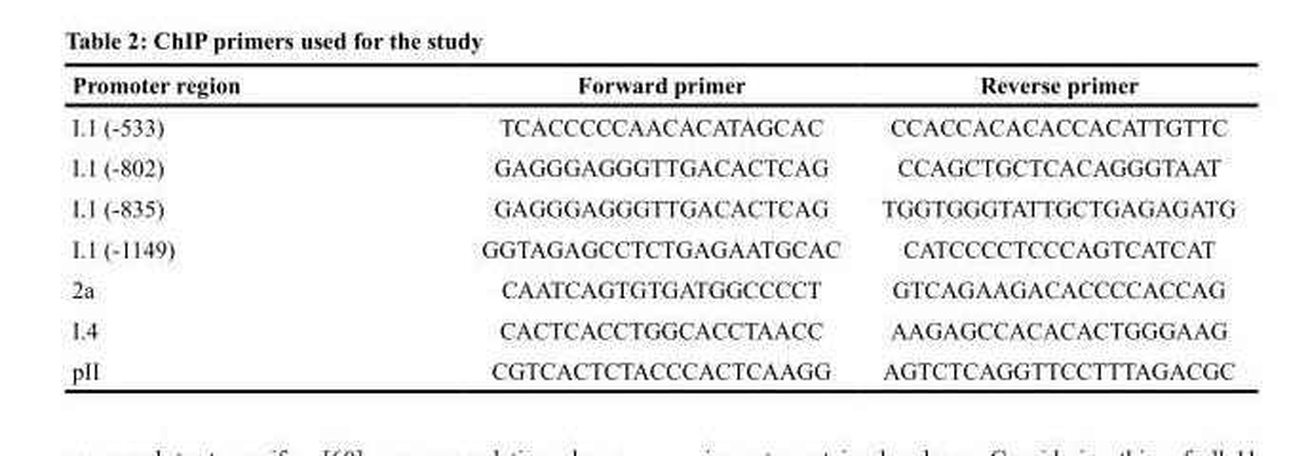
<table><thead><tr><td>Promoter region</td><td>Forward primer</td><td>Reverse primer</td></tr></thead><tbody><tr><td>I.1 (-533)</td><td>TCACCCCCAACACATAGCAC</td><td>CCACCACACACCACATTGTTC</td></tr><tr><td>I.1 (-802)</td><td>GAGGGAGGGTTGACACTCAG</td><td>CCAGCTGCTCACAGGGTAAT</td></tr><tr><td>I.1 (-835)</td><td>GAGGGAGGGTTGACACTCAG</td><td>TGGTGGGTATTGCTGAGAGATG</td></tr><tr><td>I.1 (-1149)</td><td>GGTAGAGCCTCTGAGAATGCAC</td><td>CATCCCCTCCCAGTCATCAT</td></tr><tr><td>2a</td><td>CAATCAGTGTGATGGCCCCT</td><td>GTCAGAAGACACCCCACCAG</td></tr><tr><td>I.4</td><td>CACTCACCTGGCACCTAACC</td><td>AAGAGCCACACACTGGGAAG</td></tr><tr><td>pII</td><td>CGTCACTCTACCCACTCAAGG</td><td>AGTCTCAGGTTCCTTTAGACGC</td></tr></tbody></table>